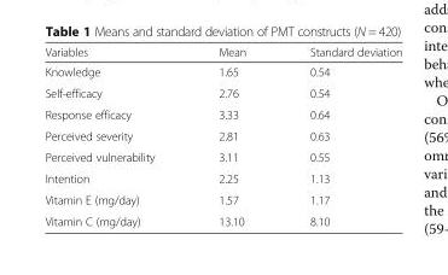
<table><thead><tr><td>Variables</td><td>Mean</td><td>Standard deviation</td></tr></thead><tbody><tr><td>Knowledge</td><td>1.65</td><td>0.54</td></tr><tr><td>Self-efficacy</td><td>2.76</td><td>0.54</td></tr><tr><td>Response efficacy</td><td>3.33</td><td>0.64</td></tr><tr><td>Perceived severity</td><td>2.81</td><td>0.63</td></tr><tr><td>Perceived vulnerability</td><td>3.11</td><td>0.55</td></tr><tr><td>Intention</td><td>2.25</td><td>1.13</td></tr><tr><td>Vitamin E (mg/day)</td><td>1.57</td><td>1.17</td></tr><tr><td>Vitamin C (mg/day)</td><td>13.10</td><td>8.10</td></tr></tbody></table>